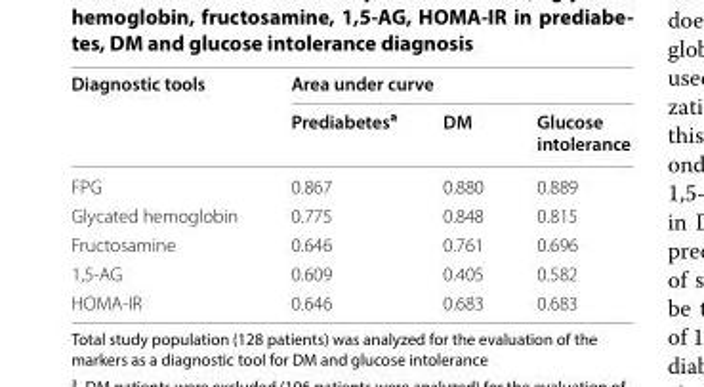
<table><thead><tr><td rowspan="2">Diagnostic tools</td><td colspan="3">Area under curve</td></tr><tr><td>Prediabetes<sup>a</sup></td><td>DM</td><td>Glucose intolerance</td></tr></thead><tbody><tr><td>FPG</td><td>0.867</td><td>0.880</td><td>0.889</td></tr><tr><td>Glycated hemoglobin</td><td>0.775</td><td>0.848</td><td>0.815</td></tr><tr><td>Fructosamine</td><td>0.646</td><td>0.761</td><td>0.696</td></tr><tr><td>1,5-AG</td><td>0.609</td><td>0.405</td><td>0.582</td></tr><tr><td>HOMA-IR</td><td>0.646</td><td>0.683</td><td>0.683</td></tr></tbody></table>